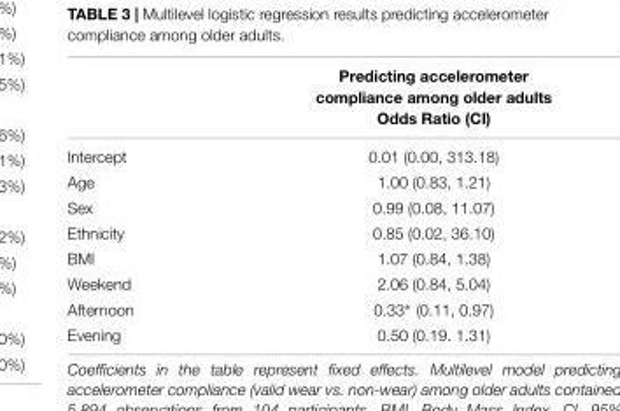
<table><thead><tr><td></td><td>Predicting accelerometer compliance among older adults Odds Ratio (CI)</td></tr></thead><tbody><tr><td>Intercept</td><td>0.01 (0.00, 313.18)</td></tr><tr><td>Age</td><td>1.00 (0.83, 1.21)</td></tr><tr><td>Sex</td><td>0.99 (0.08, 11.07)</td></tr><tr><td>Ethnicity</td><td>0.85 (0.02, 36.10)</td></tr><tr><td>BMI</td><td>1.07 (0.84, 1.38)</td></tr><tr><td>Weekend</td><td>2.06 (0.84, 5.04)</td></tr><tr><td>Afternoon</td><td>0.33∗ (0.11, 0.97)</td></tr><tr><td>Evening</td><td>0.50 (0.19. 1.31)</td></tr></tbody></table>